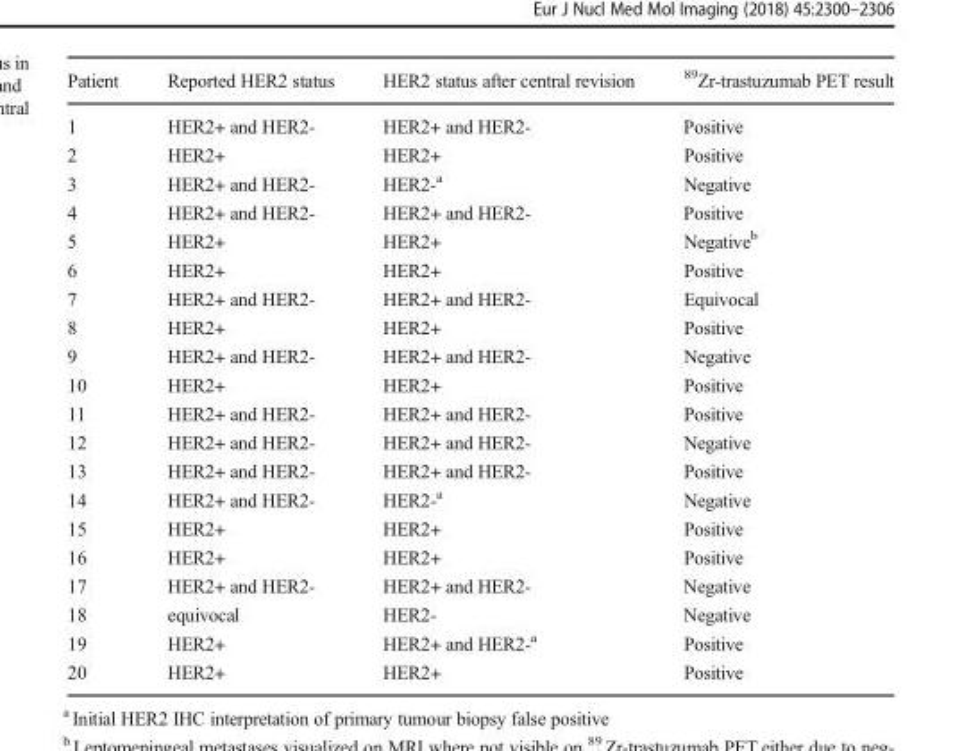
<table><thead><tr><td>Patient</td><td>Reported HER2 status</td><td>HER2 status after central revision</td><td><sup>89</sup>Zr-trastuzumab PET result</td></tr></thead><tbody><tr><td>1</td><td>HER2+ and HER2-</td><td>HER2+ and HER2-</td><td>Positive</td></tr><tr><td>2</td><td>HER2+</td><td>HER2+</td><td>Positive</td></tr><tr><td>3</td><td>HER2+ and HER2-</td><td>HER2-<sup>a</sup></td><td>Negative</td></tr><tr><td>4</td><td>HER2+ and HER2-</td><td>HER2+ and HER2-</td><td>Positive</td></tr><tr><td>5</td><td>HER2+</td><td>HER2+</td><td>Negative<sup>b</sup></td></tr><tr><td>6</td><td>HER2+</td><td>HER2+</td><td>Positive</td></tr><tr><td>7</td><td>HER2+ and HER2-</td><td>HER2+ and HER2-</td><td>Equivocal</td></tr><tr><td>8</td><td>HER2+</td><td>HER2+</td><td>Positive</td></tr><tr><td>9</td><td>HER2+ and HER2-</td><td>HER2+ and HER2-</td><td>Negative</td></tr><tr><td>10</td><td>HER2+</td><td>HER2+</td><td>Positive</td></tr><tr><td>11</td><td>HER2+ and HER2-</td><td>HER2+ and HER2-</td><td>Positive</td></tr><tr><td>12</td><td>HER2+ and HER2-</td><td>HER2+ and HER2-</td><td>Negative</td></tr><tr><td>13</td><td>HER2+ and HER2-</td><td>HER2+ and HER2-</td><td>Positive</td></tr><tr><td>14</td><td>HER2+ and HER2-</td><td>HER2-<sup>a</sup></td><td>Negative</td></tr><tr><td>15</td><td>HER2+</td><td>HER2+</td><td>Positive</td></tr><tr><td>16</td><td>HER2+</td><td>HER2+</td><td>Positive</td></tr><tr><td>17</td><td>HER2+ and HER2-</td><td>HER2+ and HER2-</td><td>Negative</td></tr><tr><td>18</td><td>equivocal</td><td>HER2-</td><td>Negative</td></tr><tr><td>19</td><td>HER2+</td><td>HER2+ and HER2-<sup>a</sup></td><td>Positive</td></tr><tr><td>20</td><td>HER2+</td><td>HER2+</td><td>Positive</td></tr></tbody></table>